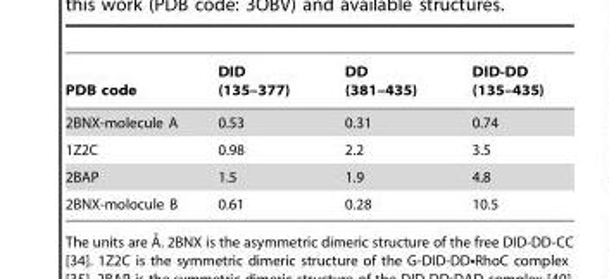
<table><thead><tr><td>PDB code</td><td>DID (135–377)</td><td>DD (381–435)</td><td>DID-DD (135–435)</td></tr></thead><tbody><tr><td>2BNX-molecule A</td><td>0.53</td><td>0.31</td><td>0.74</td></tr><tr><td>1Z2C</td><td>0.98</td><td>2.2</td><td>3.5</td></tr><tr><td>2BAP</td><td>1.5</td><td>1.9</td><td>4.8</td></tr><tr><td>2BNX-molocule B</td><td>0.61</td><td>0.28</td><td>10.5</td></tr></tbody></table>